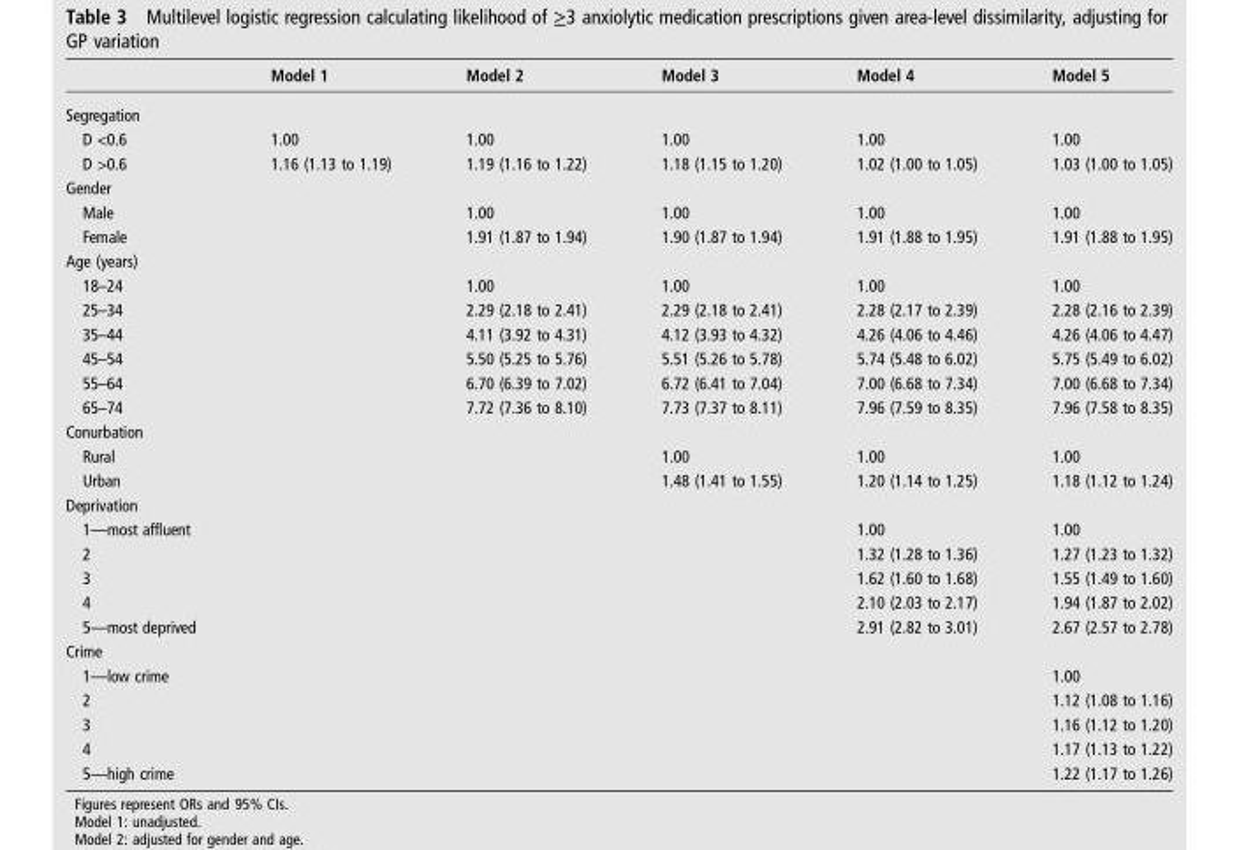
<table><thead><tr><td></td><td>Model 1</td><td>Model 2</td><td>Model 3</td><td>Model 4</td><td>Model 5</td></tr></thead><tbody><tr><td colspan="6">Segregation</td></tr><tr><td>D &lt;0.6</td><td>1.00</td><td>1.00</td><td>1.00</td><td>1.00</td><td>1.00</td></tr><tr><td>D &gt;0.6</td><td>1.16 (1.13 to 1.19)</td><td>1.19 (1.16 to 1.22)</td><td>1.18 (1.15 to 1.20)</td><td>1.02 (1.00 to 1.05)</td><td>1.03 (1.00 to 1.05)</td></tr><tr><td colspan="6">Gender</td></tr><tr><td>Male</td><td></td><td>1.00</td><td>1.00</td><td>1.00</td><td>1.00</td></tr><tr><td>Female</td><td></td><td>1.91 (1.87 to 1.94)</td><td>1.90 (1.87 to 1.94)</td><td>1.91 (1.88 to 1.95)</td><td>1.91 (1.88 to 1.95)</td></tr><tr><td colspan="6">Age (years)</td></tr><tr><td>18–24</td><td></td><td>1.00</td><td>1.00</td><td>1.00</td><td>1.00</td></tr><tr><td>25–34</td><td></td><td>2.29 (2.18 to 2.41)</td><td>2.29 (2.18 to 2.41)</td><td>2.28 (2.17 to 2.39)</td><td>2.28 (2.16 to 2.39)</td></tr><tr><td>35–44</td><td></td><td>4.11 (3.92 to 4.31)</td><td>4.12 (3.93 to 4.32)</td><td>4.26 (4.06 to 4.46)</td><td>4.26 (4.06 to 4.47)</td></tr><tr><td>45–54</td><td></td><td>5.50 (5.25 to 5.76)</td><td>5.51 (5.26 to 5.78)</td><td>5.74 (5.48 to 6.02)</td><td>5.75 (5.49 to 6.02)</td></tr><tr><td>55–64</td><td></td><td>6.70 (6.39 to 7.02)</td><td>6.72 (6.41 to 7.04)</td><td>7.00 (6.68 to 7.34)</td><td>7.00 (6.68 to 7.34)</td></tr><tr><td>65–74</td><td></td><td>7.72 (7.36 to 8.10)</td><td>7.73 (7.37 to 8.11)</td><td>7.96 (7.59 to 8.35)</td><td>7.96 (7.58 to 8.35)</td></tr><tr><td colspan="6">Conurbation</td></tr><tr><td>Rural</td><td></td><td></td><td>1.00</td><td>1.00</td><td>1.00</td></tr><tr><td>Urban</td><td></td><td></td><td>1.48 (1.41 to 1.55)</td><td>1.20 (1.14 to 1.25)</td><td>1.18 (1.12 to 1.24)</td></tr><tr><td colspan="6">Deprivation</td></tr><tr><td>1—most affluent</td><td></td><td></td><td></td><td>1.00</td><td>1.00</td></tr><tr><td>2</td><td></td><td></td><td></td><td>1.32 (1.28 to 1.36)</td><td>1.27 (1.23 to 1.32)</td></tr><tr><td>3</td><td></td><td></td><td></td><td>1.62 (1.60 to 1.68)</td><td>1.55 (1.49 to 1.60)</td></tr><tr><td>4</td><td></td><td></td><td></td><td>2.10 (2.03 to 2.17)</td><td>1.94 (1.87 to 2.02)</td></tr><tr><td>5—most deprived</td><td></td><td></td><td></td><td>2.91 (2.82 to 3.01)</td><td>2.67 (2.57 to 2.78)</td></tr><tr><td colspan="6">Crime</td></tr><tr><td>1—low crime</td><td></td><td></td><td></td><td></td><td>1.00</td></tr><tr><td>2</td><td></td><td></td><td></td><td></td><td>1.12 (1.08 to 1.16)</td></tr><tr><td>3</td><td></td><td></td><td></td><td></td><td>1.16 (1.12 to 1.20)</td></tr><tr><td>4</td><td></td><td></td><td></td><td></td><td>1.17 (1.13 to 1.22)</td></tr><tr><td>5—high crime</td><td></td><td></td><td></td><td></td><td>1.22 (1.17 to 1.26)</td></tr></tbody></table>